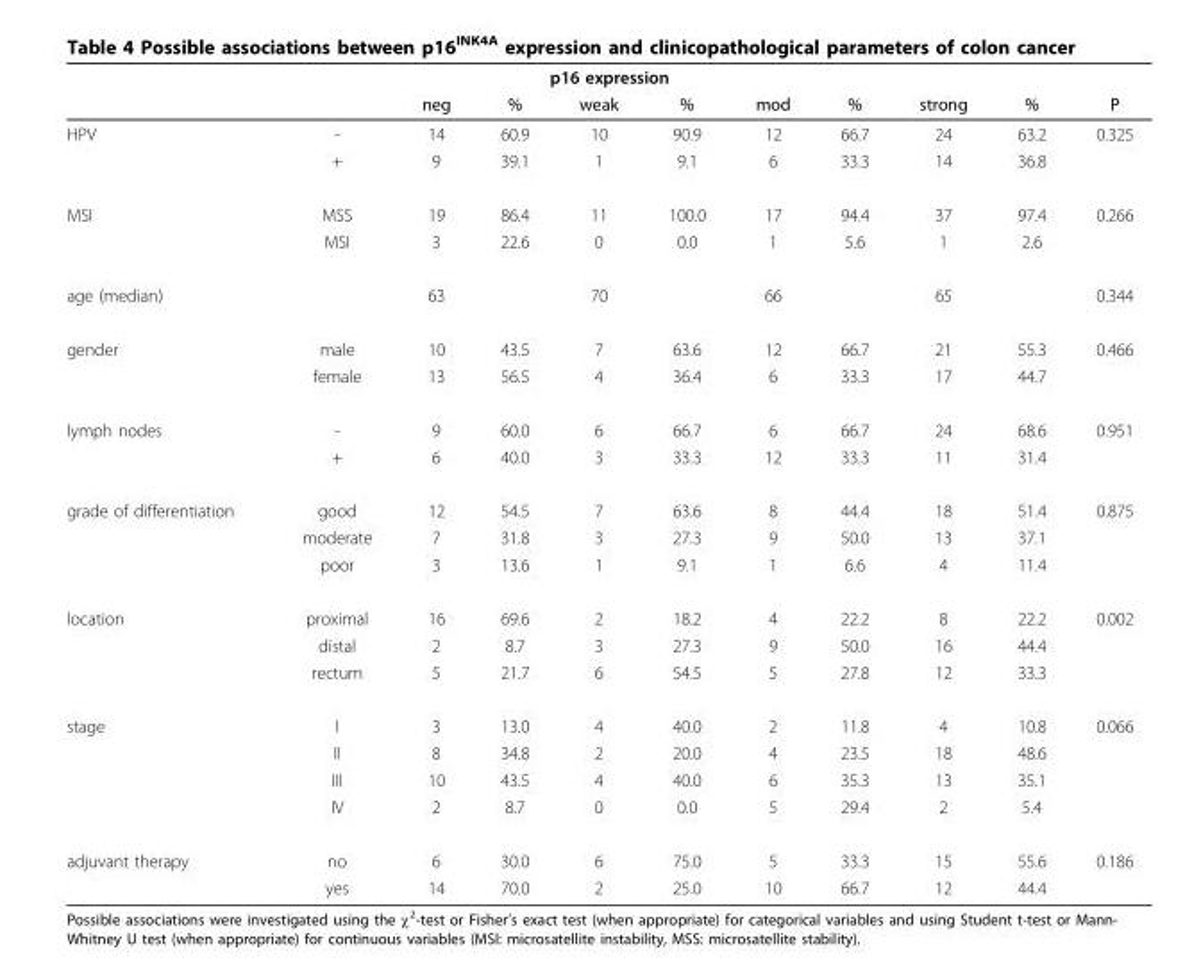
<table><thead><tr><td colspan="11">p16 expression</td></tr><tr><td></td><td></td><td>neg</td><td>%</td><td>weak</td><td>%</td><td>mod</td><td>%</td><td>strong</td><td>%</td><td>P</td></tr></thead><tbody><tr><td rowspan="2">HPV</td><td>-</td><td>14</td><td>60.9</td><td>10</td><td>90.9</td><td>12</td><td>66.7</td><td>24</td><td>63.2</td><td>0.325</td></tr><tr><td>+</td><td>9</td><td>39.1</td><td>1</td><td>9.1</td><td>6</td><td>33.3</td><td>14</td><td>36.8</td><td></td></tr><tr><td rowspan="2">MSI</td><td>MSS</td><td>19</td><td>86.4</td><td>11</td><td>100.0</td><td>17</td><td>94.4</td><td>37</td><td>97.4</td><td>0.266</td></tr><tr><td>MSI</td><td>3</td><td>22.6</td><td>0</td><td>0.0</td><td>1</td><td>5.6</td><td>1</td><td>2.6</td><td></td></tr><tr><td>age (median)</td><td></td><td>63</td><td></td><td>70</td><td></td><td>66</td><td></td><td>65</td><td></td><td>0.344</td></tr><tr><td rowspan="2">gender</td><td>male</td><td>10</td><td>43.5</td><td>7</td><td>63.6</td><td>12</td><td>66.7</td><td>21</td><td>55.3</td><td>0.466</td></tr><tr><td>female</td><td>13</td><td>56.5</td><td>4</td><td>36.4</td><td>6</td><td>33.3</td><td>17</td><td>44.7</td><td></td></tr><tr><td rowspan="2">lymph nodes</td><td>-</td><td>9</td><td>60.0</td><td>6</td><td>66.7</td><td>6</td><td>66.7</td><td>24</td><td>68.6</td><td>0.951</td></tr><tr><td>+</td><td>6</td><td>40.0</td><td>3</td><td>33.3</td><td>12</td><td>33.3</td><td>11</td><td>31.4</td><td></td></tr><tr><td rowspan="3">grade of differentiation</td><td>good</td><td>12</td><td>54.5</td><td>7</td><td>63.6</td><td>8</td><td>44.4</td><td>18</td><td>51.4</td><td>0.875</td></tr><tr><td>moderate</td><td>7</td><td>31.8</td><td>3</td><td>27.3</td><td>9</td><td>50.0</td><td>13</td><td>37.1</td><td></td></tr><tr><td>poor</td><td>3</td><td>13.6</td><td>1</td><td>9.1</td><td>1</td><td>6.6</td><td>4</td><td>11.4</td><td></td></tr><tr><td rowspan="3">location</td><td>proximal</td><td>16</td><td>69.6</td><td>2</td><td>18.2</td><td>4</td><td>22.2</td><td>8</td><td>22.2</td><td>0.002</td></tr><tr><td>distal</td><td>2</td><td>8.7</td><td>3</td><td>27.3</td><td>9</td><td>50.0</td><td>16</td><td>44.4</td><td></td></tr><tr><td>rectum</td><td>5</td><td>21.7</td><td>6</td><td>54.5</td><td>5</td><td>27.8</td><td>12</td><td>33.3</td><td></td></tr><tr><td rowspan="4">stage</td><td>I</td><td>3</td><td>13.0</td><td>4</td><td>40.0</td><td>2</td><td>11.8</td><td>4</td><td>10.8</td><td>0.066</td></tr><tr><td>II</td><td>8</td><td>34.8</td><td>2</td><td>20.0</td><td>4</td><td>23.5</td><td>18</td><td>48.6</td><td></td></tr><tr><td>III</td><td>10</td><td>43.5</td><td>4</td><td>40.0</td><td>6</td><td>35.3</td><td>13</td><td>35.1</td><td></td></tr><tr><td>IV</td><td>2</td><td>8.7</td><td>0</td><td>0.0</td><td>5</td><td>29.4</td><td>2</td><td>5.4</td><td></td></tr><tr><td rowspan="2">adjuvant therapy</td><td>no</td><td>6</td><td>30.0</td><td>6</td><td>75.0</td><td>5</td><td>33.3</td><td>15</td><td>55.6</td><td>0.186</td></tr><tr><td>yes</td><td>14</td><td>70.0</td><td>2</td><td>25.0</td><td>10</td><td>66.7</td><td>12</td><td>44.4</td><td></td></tr></tbody></table>